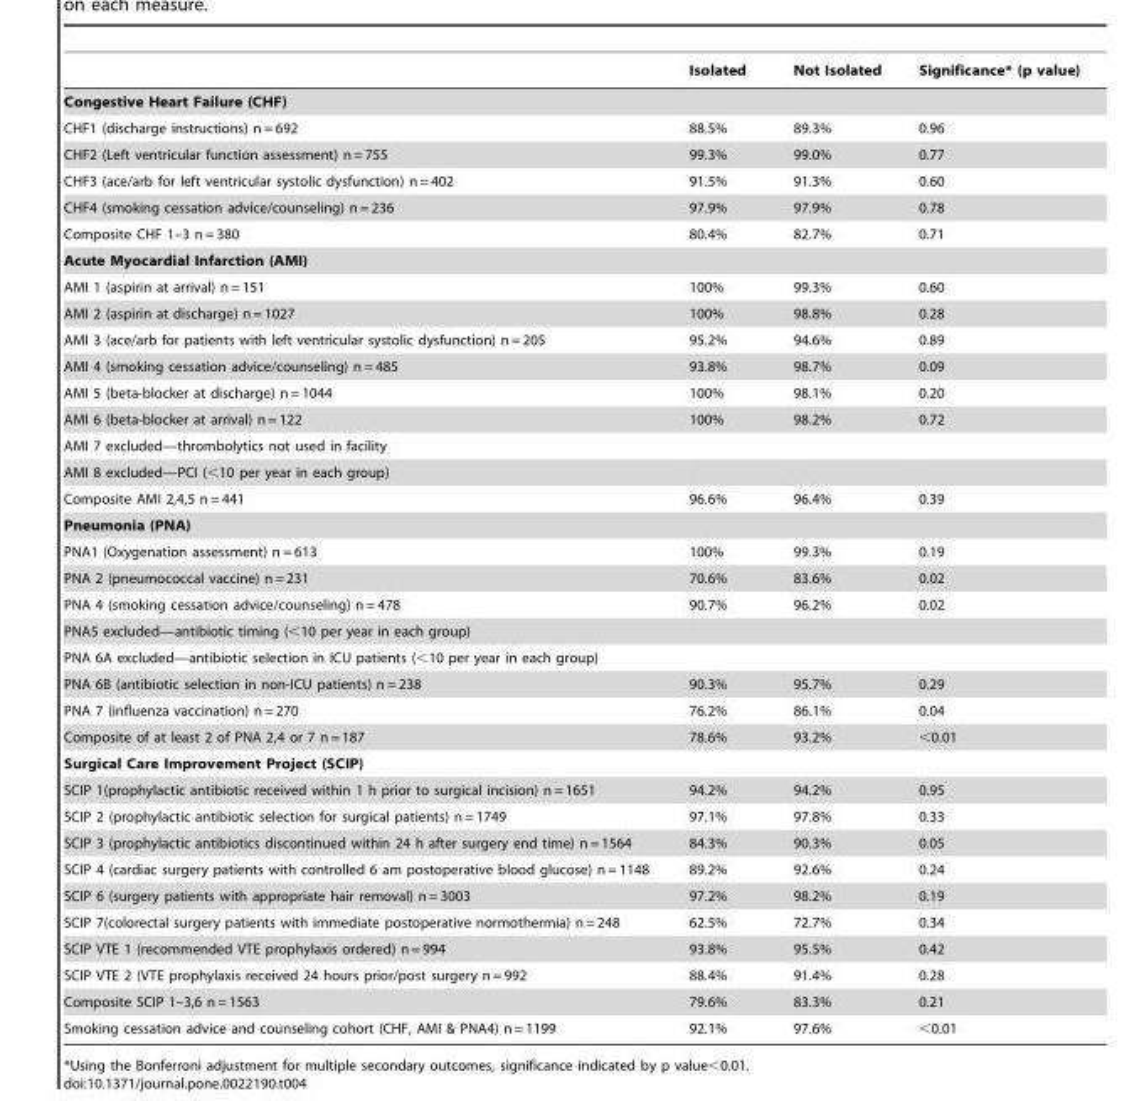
<table><thead><tr><td></td><td>Isolated</td><td>Not Isolated</td><td>Significance* (p value)</td></tr></thead><tbody><tr><td colspan="4">Congestive Heart Failure (CHF)</td></tr><tr><td>CHF1 (discharge instructions) n = 692</td><td>88.5%</td><td>89.3%</td><td>0.96</td></tr><tr><td>CHF2 (Left ventricular function assessment) n = 755</td><td>99.3%</td><td>99.0%</td><td>0.77</td></tr><tr><td>CHF3 (ace/arb for left ventricular systolic dysfunction) n = 402</td><td>91.5%</td><td>91.3%</td><td>0.60</td></tr><tr><td>CHF4 (smoking cessation advice/counseling) n = 236</td><td>97.9%</td><td>97.9%</td><td>0.78</td></tr><tr><td>Composite CHF 1–3 n = 380</td><td>80.4%</td><td>82.7%</td><td>0.71</td></tr><tr><td colspan="4">Acute Myocardial Infarction (AMI)</td></tr><tr><td>AMI 1 (aspirin at arrival) n = 151</td><td>100%</td><td>99.3%</td><td>0.60</td></tr><tr><td>AMI 2 (aspirin at discharge) n = 1027</td><td>100%</td><td>98.8%</td><td>0.28</td></tr><tr><td>AMI 3 (ace/arb for patients with left ventricular systolic dysfunction) n = 205</td><td>95.2%</td><td>94.6%</td><td>0.89</td></tr><tr><td>AMI 4 (smoking cessation advice/counseling) n = 485</td><td>93.8%</td><td>98.7%</td><td>0.09</td></tr><tr><td>AMI 5 (beta-blocker at discharge) n = 1044</td><td>100%</td><td>98.1%</td><td>0.20</td></tr><tr><td>AMI 6 (beta-blocker at arrival) n = 122</td><td>100%</td><td>98.2%</td><td>0.72</td></tr><tr><td colspan="4">AMI 7 excluded—thrombolytics not used in facility</td></tr><tr><td colspan="4">AMI 8 excluded—PCI (&lt;10 per year in each group)</td></tr><tr><td>Composite AMI 2,4,5 n = 441</td><td>96.6%</td><td>96.4%</td><td>0.39</td></tr><tr><td colspan="4">Pneumonia (PNA)</td></tr><tr><td>PNA1 (Oxygenation assessment) n = 613</td><td>100%</td><td>99.3%</td><td>0.19</td></tr><tr><td>PNA 2 (pneumococcal vaccine) n = 231</td><td>70.6%</td><td>83.6%</td><td>0.02</td></tr><tr><td>PNA 4 (smoking cessation advice/counseling) n = 478</td><td>90.7%</td><td>96.2%</td><td>0.02</td></tr><tr><td colspan="4">PNA5 excluded—antibiotic timing (&lt;10 per year in each group)</td></tr><tr><td colspan="4">PNA 6A excluded—antibiotic selection in ICU patients (&lt;10 per year in each group)</td></tr><tr><td>PNA 6B (antibiotic selection in non-ICU patients) n = 238</td><td>90.3%</td><td>95.7%</td><td>0.29</td></tr><tr><td>PNA 7 (influenza vaccination) n = 270</td><td>76.2%</td><td>86.1%</td><td>0.04</td></tr><tr><td>Composite of at least 2 of PNA 2,4 or 7 n = 187</td><td>78.6%</td><td>93.2%</td><td>&lt;0.01</td></tr><tr><td colspan="4">Surgical Care Improvement Project (SCIP)</td></tr><tr><td>SCIP 1(prophylactic antibiotic received within 1 h prior to surgical incision) n = 1651</td><td>94.2%</td><td>94.2%</td><td>0.95</td></tr><tr><td>SCIP 2 (prophylactic antibiotic selection for surgical patients) n = 1749</td><td>97.1%</td><td>97.8%</td><td>0.33</td></tr><tr><td>SCIP 3 (prophylactic antibiotics discontinued within 24 h after surgery end time) n = 1564</td><td>84.3%</td><td>90.3%</td><td>0.05</td></tr><tr><td>SCIP 4 (cardiac surgery patients with controlled 6 am postoperative blood glucose) n = 1148</td><td>89.2%</td><td>92.6%</td><td>0.24</td></tr><tr><td>SCIP 6 (surgery patients with appropriate hair removal) n = 3003</td><td>97.2%</td><td>98.2%</td><td>0.19</td></tr><tr><td>SCIP 7(colorectal surgery patients with immediate postoperative normothermia) n = 248</td><td>62.5%</td><td>72.7%</td><td>0.34</td></tr><tr><td>SCIP VTE 1 (recommended VTE prophylaxis ordered) n = 994</td><td>93.8%</td><td>95.5%</td><td>0.42</td></tr><tr><td>SCIP VTE 2 (VTE prophylaxis received 24 hours prior/post surgery n = 992</td><td>88.4%</td><td>91.4%</td><td>0.28</td></tr><tr><td>Composite SCIP 1–3,6 n = 1563</td><td>79.6%</td><td>83.3%</td><td>0.21</td></tr><tr><td>Smoking cessation advice and counseling cohort (CHF, AMI &amp; PNA4) n = 1199</td><td>92.1%</td><td>97.6%</td><td>&lt;0.01</td></tr></tbody></table>